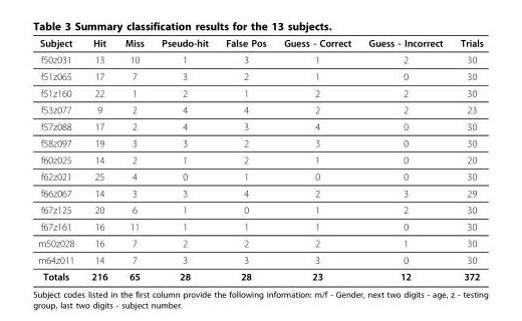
<table><thead><tr><td>Subject</td><td>Hit</td><td>Miss</td><td>Pseudo-hit</td><td>False Pos</td><td>Guess - Correct</td><td>Guess - Incorrect</td><td>Trials</td></tr></thead><tbody><tr><td>f50z031</td><td>13</td><td>10</td><td>1</td><td>3</td><td>1</td><td>2</td><td>30</td></tr><tr><td>f51z065</td><td>17</td><td>7</td><td>3</td><td>2</td><td>1</td><td>0</td><td>30</td></tr><tr><td>f51z160</td><td>22</td><td>1</td><td>2</td><td>1</td><td>2</td><td>2</td><td>30</td></tr><tr><td>f53z077</td><td>9</td><td>2</td><td>4</td><td>4</td><td>2</td><td>2</td><td>23</td></tr><tr><td>f57z088</td><td>17</td><td>2</td><td>4</td><td>3</td><td>4</td><td>0</td><td>30</td></tr><tr><td>f58z097</td><td>19</td><td>3</td><td>3</td><td>2</td><td>3</td><td>0</td><td>30</td></tr><tr><td>f60z025</td><td>14</td><td>2</td><td>1</td><td>2</td><td>1</td><td>0</td><td>20</td></tr><tr><td>f62z021</td><td>25</td><td>4</td><td>0</td><td>1</td><td>0</td><td>0</td><td>30</td></tr><tr><td>f66z067</td><td>14</td><td>3</td><td>3</td><td>4</td><td>2</td><td>3</td><td>29</td></tr><tr><td>f67z125</td><td>20</td><td>6</td><td>1</td><td>0</td><td>1</td><td>2</td><td>30</td></tr><tr><td>f67z161</td><td>16</td><td>11</td><td>1</td><td>1</td><td>1</td><td>0</td><td>30</td></tr><tr><td>m50z028</td><td>16</td><td>7</td><td>2</td><td>2</td><td>2</td><td>1</td><td>30</td></tr><tr><td>m64z011</td><td>14</td><td>7</td><td>3</td><td>3</td><td>3</td><td>0</td><td>30</td></tr><tr><td>Totals</td><td>216</td><td>65</td><td>28</td><td>28</td><td>23</td><td>12</td><td>372</td></tr></tbody></table>